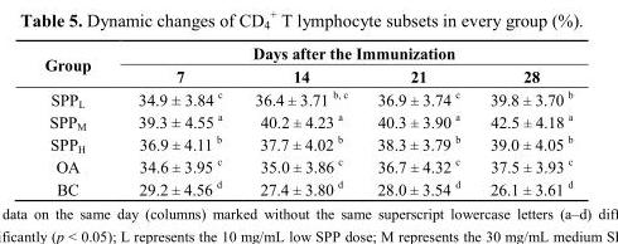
<table><thead><tr><td rowspan="2">Group</td><td colspan="4">Days after the Immunization</td></tr><tr><td>7</td><td>14</td><td>21</td><td>28</td></tr></thead><tbody><tr><td>SPP<sub>L</sub></td><td>34.9 ± 3.84 <sup>c</sup></td><td>36.4 ± 3.71 <sup>b, c</sup></td><td>36.9 ± 3.74 <sup>c</sup></td><td>39.8 ± 3.70 <sup>b</sup></td></tr><tr><td>SPP<sub>M</sub></td><td>39.3 ± 4.55 <sup>a</sup></td><td>40.2 ± 4.23 <sup>a</sup></td><td>40.3 ± 3.90 <sup>a</sup></td><td>42.5 ± 4.18 <sup>a</sup></td></tr><tr><td>SPP<sub>H</sub></td><td>36.9 ± 4.11 <sup>b</sup></td><td>37.7 ± 4.02 <sup>b</sup></td><td>38.3 ± 3.79 <sup>b</sup></td><td>39.0 ± 4.05 <sup>b</sup></td></tr><tr><td>OA</td><td>34.6 ± 3.95 <sup>c</sup></td><td>35.0 ± 3.86 <sup>c</sup></td><td>36.7 ± 4.32 <sup>c</sup></td><td>37.5 ± 3.93 <sup>c</sup></td></tr><tr><td>BC</td><td>29.2 ± 4.56 <sup>d</sup></td><td>27.4 ± 3.80 <sup>d</sup></td><td>28.0 ± 3.54 <sup>d</sup></td><td>26.1 ± 3.61 <sup>d</sup></td></tr></tbody></table>